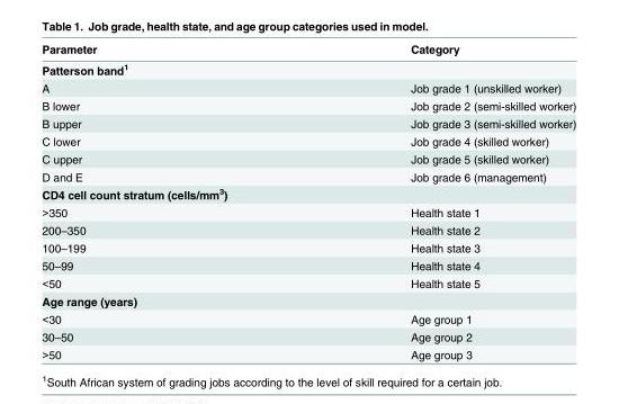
<table><thead><tr><td>Parameter</td><td>Category</td></tr></thead><tbody><tr><td colspan="2">Patterson band<sup>1</sup></td></tr><tr><td>A</td><td>Job grade 1 (unskilled worker)</td></tr><tr><td>B lower</td><td>Job grade 2 (semi-skilled worker)</td></tr><tr><td>B upper</td><td>Job grade 3 (semi-skilled worker)</td></tr><tr><td>C lower</td><td>Job grade 4 (skilled worker)</td></tr><tr><td>C upper</td><td>Job grade 5 (skilled worker)</td></tr><tr><td>D and E</td><td>Job grade 6 (management)</td></tr><tr><td colspan="2">CD4 cell count stratum (cells/mm<sup>3</sup>)</td></tr><tr><td>&gt;350</td><td>Health state 1</td></tr><tr><td>200–350</td><td>Health state 2</td></tr><tr><td>100–199</td><td>Health state 3</td></tr><tr><td>50–99</td><td>Health state 4</td></tr><tr><td>&lt;50</td><td>Health state 5</td></tr><tr><td colspan="2">Age range (years)</td></tr><tr><td>&lt;30</td><td>Age group 1</td></tr><tr><td>30–50</td><td>Age group 2</td></tr><tr><td>&gt;50</td><td>Age group 3</td></tr></tbody></table>